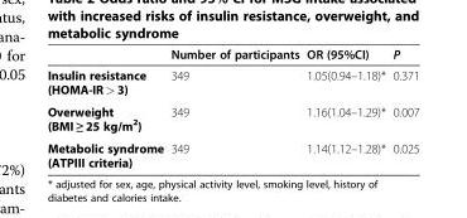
<table><thead><tr><td></td><td>Number of participants</td><td>OR (95%CI)</td><td>P</td></tr></thead><tbody><tr><td>Insulin resistance (HOMA-IR &gt; 3)</td><td>349</td><td>1.05(0.94–1.18)*</td><td>0.371</td></tr><tr><td>Overweight (BMI ≥ 25 kg/m<sup>2</sup>)</td><td>349</td><td>1.16(1.04–1.29)*</td><td>0.007</td></tr><tr><td>Metabolic syndrome (ATPIII criteria)</td><td>349</td><td>1.14(1.12–1.28)*</td><td>0.025</td></tr></tbody></table>